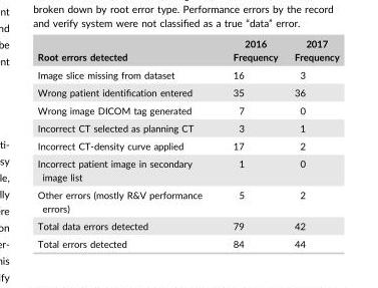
<table><thead><tr><td>Root errors detected</td><td>2016 Frequency</td><td>2017 Frequency</td></tr></thead><tbody><tr><td>Image slice missing from dataset</td><td>16</td><td>3</td></tr><tr><td>Wrong patient identification entered</td><td>35</td><td>36</td></tr><tr><td>Wrong image DICOM tag generated</td><td>7</td><td>0</td></tr><tr><td>Incorrect CT selected as planning CT</td><td>3</td><td>1</td></tr><tr><td>Incorrect CT-density curve applied</td><td>17</td><td>2</td></tr><tr><td>Incorrect patient image in secondary image list</td><td>1</td><td>0</td></tr><tr><td>Other errors (mostly R&amp;V performance errors)</td><td>5</td><td>2</td></tr><tr><td>Total data errors detected</td><td>79</td><td>42</td></tr><tr><td>Total errors detected</td><td>84</td><td>44</td></tr></tbody></table>